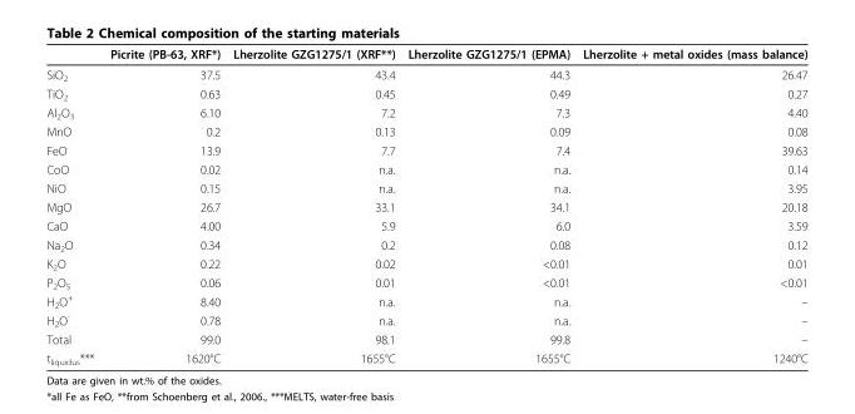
<table><thead><tr><td></td><td>Picrite (PB-63, XRF*)</td><td>Lherzolite GZG1275/1 (XRF**)</td><td>Lherzolite GZG1275/1 (EPMA)</td><td>Lherzolite + metal oxides (mass balance)</td></tr></thead><tbody><tr><td>SiO<sub>2</sub></td><td>37.5</td><td>43.4</td><td>44.3</td><td>26.47</td></tr><tr><td>TiO<sub>2</sub></td><td>0.63</td><td>0.45</td><td>0.49</td><td>0.27</td></tr><tr><td>Al<sub>2</sub>O<sub>3</sub></td><td>6.10</td><td>7.2</td><td>7.3</td><td>4.40</td></tr><tr><td>MnO</td><td>0.2</td><td>0.13</td><td>0.09</td><td>0.08</td></tr><tr><td>FeO</td><td>13.9</td><td>7.7</td><td>7.4</td><td>39.63</td></tr><tr><td>CoO</td><td>0.02</td><td>n.a.</td><td>n.a.</td><td>0.14</td></tr><tr><td>NiO</td><td>0.15</td><td>n.a.</td><td>n.a.</td><td>3.95</td></tr><tr><td>MgO</td><td>26.7</td><td>33.1</td><td>34.1</td><td>20.18</td></tr><tr><td>CaO</td><td>4.00</td><td>5.9</td><td>6.0</td><td>3.59</td></tr><tr><td>Na<sub>2</sub>O</td><td>0.34</td><td>0.2</td><td>0.08</td><td>0.12</td></tr><tr><td>K<sub>2</sub>O</td><td>0.22</td><td>0.02</td><td>&lt;0.01</td><td>0.01</td></tr><tr><td>P<sub>2</sub>O<sub>5</sub></td><td>0.06</td><td>0.01</td><td>&lt;0.01</td><td>&lt;0.01</td></tr><tr><td>H<sub>2</sub>O<sup>+</sup></td><td>8.40</td><td>n.a.</td><td>n.a.</td><td>–</td></tr><tr><td>H<sub>2</sub>O<sup>-</sup></td><td>0.78</td><td>n.a.</td><td>n.a.</td><td>–</td></tr><tr><td>Total</td><td>99.0</td><td>98.1</td><td>99.8</td><td>–</td></tr><tr><td>t<sub>liquidus</sub>***</td><td>1620°C</td><td>1655°C</td><td>1655°C</td><td>1240°C</td></tr></tbody></table>